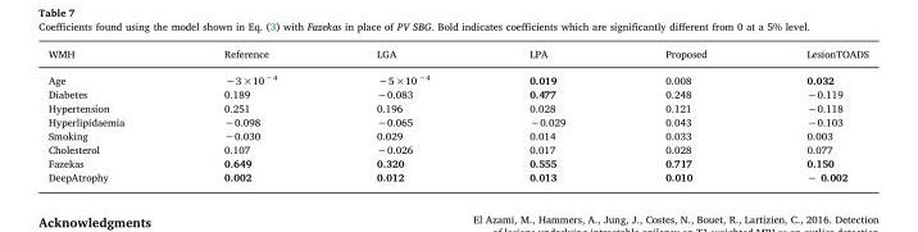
<table><thead><tr><td>WMH</td><td>Reference</td><td>LGA</td><td>LPA</td><td>Proposed</td><td>LesionTOADS</td></tr></thead><tbody><tr><td>Age</td><td>−3×10<sup>−4</sup></td><td>−5×10 <sup>−4</sup></td><td>0.019</td><td>0.008</td><td>0.032</td></tr><tr><td>Diabetes</td><td>0.189</td><td>−0.083</td><td>0.477</td><td>0.248</td><td>−0.119</td></tr><tr><td>Hypertension</td><td>0.251</td><td>0.196</td><td>0.028</td><td>0.121</td><td>−0.118</td></tr><tr><td>Hyperlipidaemia</td><td>−0.098</td><td>−0.065</td><td>−0.029</td><td>0.043</td><td>−0.103</td></tr><tr><td>Smoking</td><td>−0.030</td><td>0.029</td><td>0.014</td><td>0.033</td><td>0.003</td></tr><tr><td>Cholesterol</td><td>0.107</td><td>−0.026</td><td>0.017</td><td>0.028</td><td>0.077</td></tr><tr><td>Fazekas</td><td>0.649</td><td>0.320</td><td>0.555</td><td>0.717</td><td>0.150</td></tr><tr><td>DeepAtrophy</td><td>0.002</td><td>0.012</td><td>0.013</td><td>0.010</td><td>− 0.002</td></tr></tbody></table>